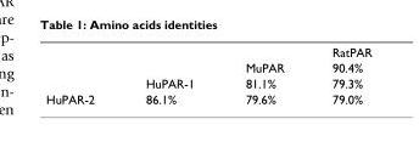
<table><thead><tr><td></td><td></td><td></td><td>RatPAR</td></tr></thead><tbody><tr><td></td><td></td><td>MuPAR</td><td>90.4%</td></tr><tr><td></td><td>HuPAR-1</td><td>81.1%</td><td>79.3%</td></tr><tr><td>HuPAR-2</td><td>86.1%</td><td>79.6%</td><td>79.0%</td></tr></tbody></table>